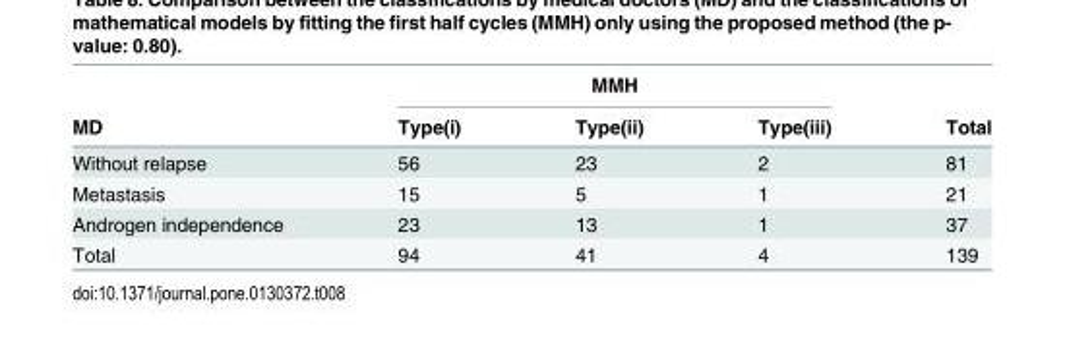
<table><thead><tr><td rowspan="2">MD</td><td colspan="3">MMH</td><td rowspan="2">Total</td></tr><tr><td>Type(i)</td><td>Type(ii)</td><td>Type(iii)</td></tr></thead><tbody><tr><td>Without relapse</td><td>56</td><td>23</td><td>2</td><td>81</td></tr><tr><td>Metastasis</td><td>15</td><td>5</td><td>1</td><td>21</td></tr><tr><td>Androgen independence</td><td>23</td><td>13</td><td>1</td><td>37</td></tr><tr><td>Total</td><td>94</td><td>41</td><td>4</td><td>139</td></tr></tbody></table>